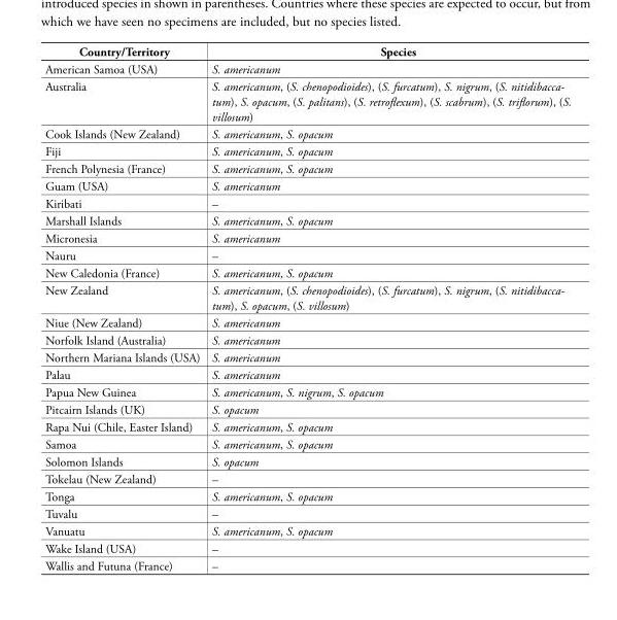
<table><tbody><tr><td>Country/Territory</td><td>Species</td></tr><tr><td>American Samoa (USA)</td><td>S. americanum</td></tr><tr><td>Australia</td><td>S. americanum, (S. chenopodioides), (S. furcatum), S. nigrum, (S. nitidibacca- tum), S. opacum, (S. palitans), (S. retroflexum), (S. scabrum), (S. triflorum), (S. villosum)</td></tr><tr><td>Cook Islands (New Zealand)</td><td>S. americanum, S. opacum</td></tr><tr><td>Fiji</td><td>S. americanum, S. opacum</td></tr><tr><td>French Polynesia (France)</td><td>S. americanum, S. opacum</td></tr><tr><td>Guam (USA)</td><td>S. americanum</td></tr><tr><td>Kiribati</td><td>–</td></tr><tr><td>Marshall Islands</td><td>S. americanum, S. opacum</td></tr><tr><td>Micronesia</td><td>S. americanum</td></tr><tr><td>Nauru</td><td>–</td></tr><tr><td>New Caledonia (France)</td><td>S. americanum, S. opacum</td></tr><tr><td>New Zealand</td><td>S. americanum, (S. chenopodioides), (S. furcatum), S. nigrum, (S. nitidibacca- tum), S. opacum, (S. villosum)</td></tr><tr><td>Niue (New Zealand)</td><td>S. americanum</td></tr><tr><td>Norfolk Island (Australia)</td><td>S. americanum</td></tr><tr><td>Northern Mariana Islands (USA)</td><td>S. americanum</td></tr><tr><td>Palau</td><td>S. americanum</td></tr><tr><td>Papua New Guinea</td><td>S. americanum, S. nigrum, S. opacum</td></tr><tr><td>Pitcairn Islands (UK)</td><td>S. opacum</td></tr><tr><td>Rapa Nui (Chile, Easter Island)</td><td>S. americanum, S. opacum</td></tr><tr><td>Samoa</td><td>S. americanum, S. opacum</td></tr><tr><td>Solomon Islands</td><td>S. opacum</td></tr><tr><td>Tokelau (New Zealand)</td><td>–</td></tr><tr><td>Tonga</td><td>S. americanum, S. opacum</td></tr><tr><td>Tuvalu</td><td>–</td></tr><tr><td>Vanuatu</td><td>S. americanum, S. opacum</td></tr><tr><td>Wake Island (USA)</td><td>–</td></tr><tr><td>Wallis and Futuna (France)</td><td>–</td></tr></tbody></table>